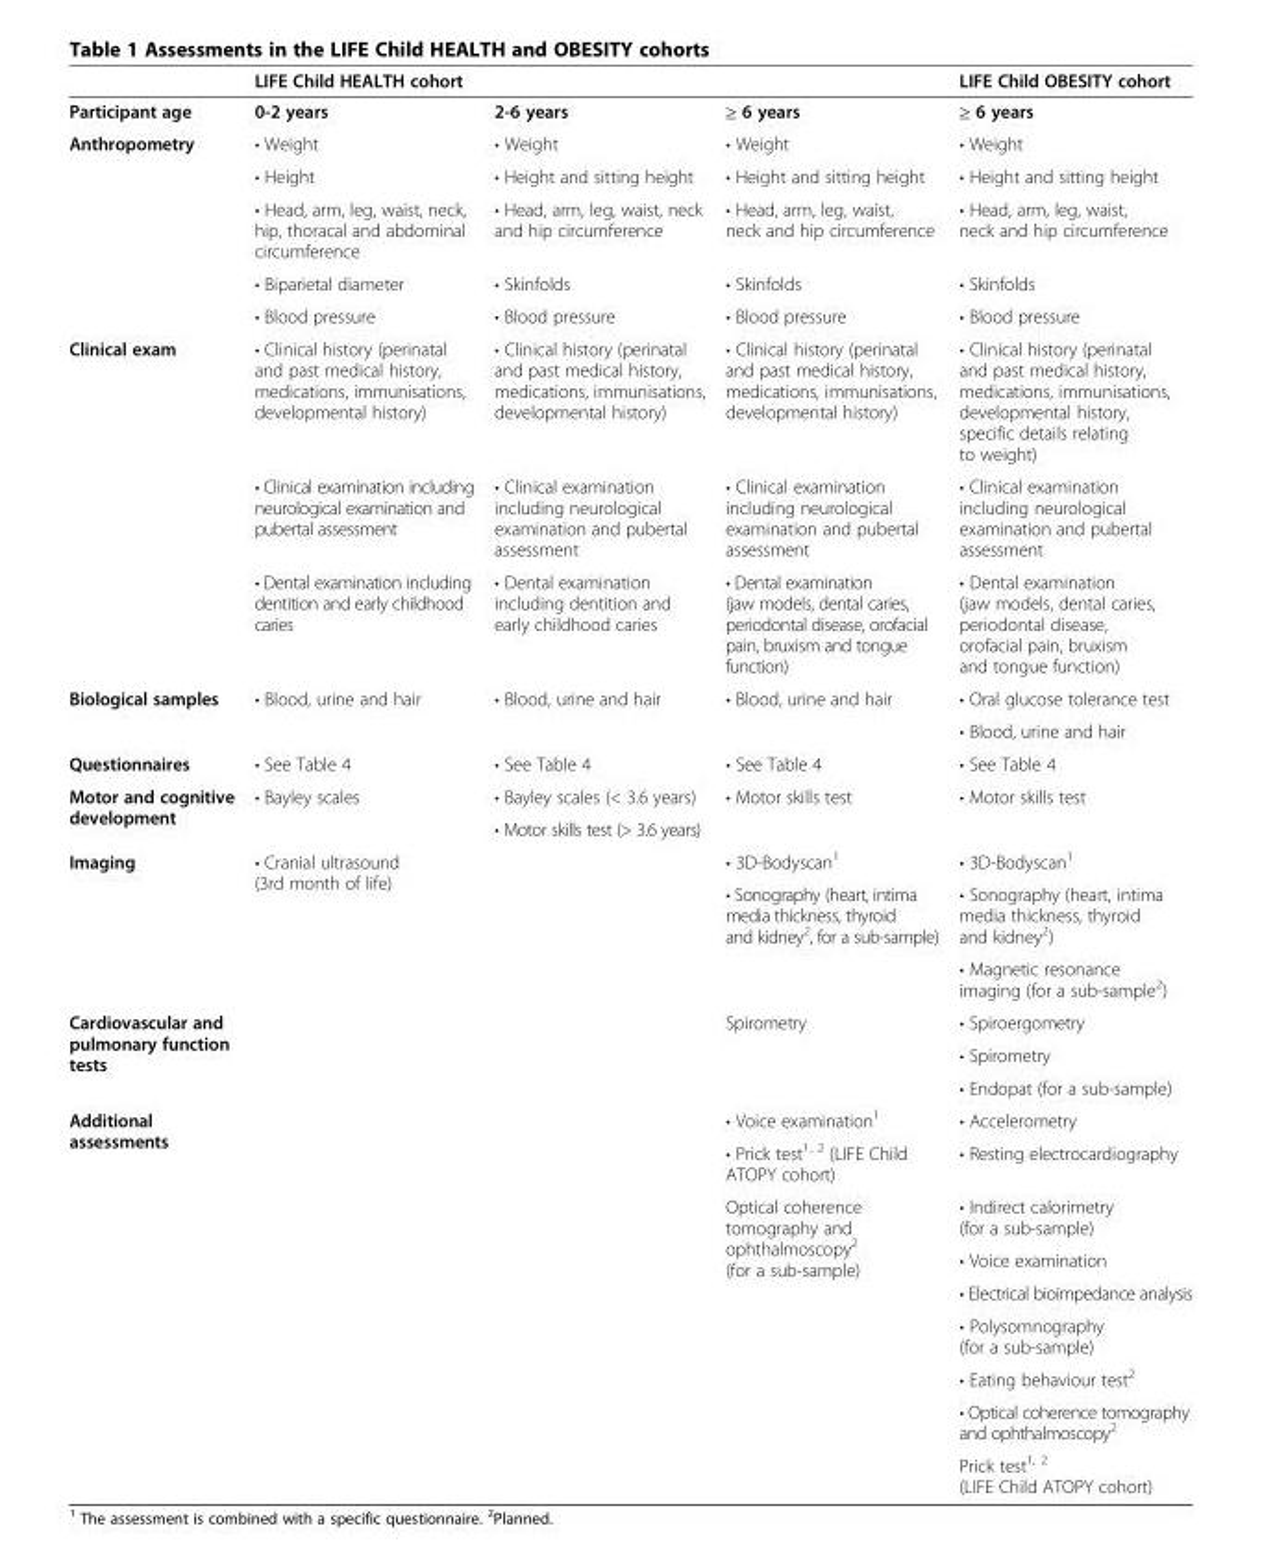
<table><thead><tr><td rowspan="2">Participant age</td><td colspan="3">LIFE Child HEALTH cohort</td><td rowspan="2">LIFE Child OBESITY cohort ≥ 6 years</td></tr><tr><td>0-2 years</td><td>2-6 years</td><td>≥ 6 years</td></tr></thead><tbody><tr><td rowspan="5">Anthropometry</td><td>• Weight</td><td>• Weight</td><td>• Weight</td><td>• Weight</td></tr><tr><td>• Height</td><td>• Height and sitting height</td><td>• Height and sitting height</td><td>• Height and sitting height</td></tr><tr><td>• Head, arm, leg, waist, neck, hip, thoracal and abdominal circumference</td><td>• Head, arm, leg, waist, neck and hip circumference</td><td>• Head, arm, leg, waist, neck and hip circumference</td><td>• Head, arm, leg, waist, neck and hip circumference</td></tr><tr><td>• Biparietal diameter</td><td>• Skinfolds</td><td>• Skinfolds</td><td>• Skinfolds</td></tr><tr><td>• Blood pressure</td><td>• Blood pressure</td><td>• Blood pressure</td><td>• Blood pressure</td></tr><tr><td rowspan="3">Clinical exam</td><td>• Clinical history (perinatal and past medical history, medications, immunisations, developmental history)</td><td>• Clinical history (perinatal and past medical history, medications, immunisations, developmental history)</td><td>• Clinical history (perinatal and past medical history, medications, immunisations, developmental history)</td><td>• Clinical history (perinatal and past medical history, medications, immunisations, developmental history, specific details relating to weight)</td></tr><tr><td>• Clinical examination including neurological examination and pubertal assessment</td><td>• Clinical examination including neurological examination and pubertal assessment</td><td>• Clinical examination including neurological examination and pubertal assessment</td><td>• Clinical examination including neurological examination and pubertal assessment</td></tr><tr><td>• Dental examination including dentition and early childhood caries</td><td>• Dental examination including dentition and early childhood caries</td><td>• Dental examination (jaw models, dental caries, periodontal disease, orofacial pain, bruxism and tongue function)</td><td>• Dental examination (jaw models, dental caries, periodontal disease, orofacial pain, bruxism and tongue function)</td></tr><tr><td rowspan="2">Biological samples</td><td rowspan="2">• Blood, urine and hair</td><td rowspan="2">• Blood, urine and hair</td><td rowspan="2">• Blood, urine and hair</td><td>• Oral glucose tolerance test</td></tr><tr><td>• Blood, urine and hair</td></tr><tr><td>Questionnaires</td><td>• See Table 4</td><td>• See Table 4</td><td>• See Table 4</td><td>• See Table 4</td></tr><tr><td rowspan="2">Motor and cognitive development</td><td rowspan="2">• Bayley scales</td><td>• Bayley scales (&lt; 3.6 years)</td><td rowspan="2">• Motor skills test</td><td rowspan="2">• Motor skills test</td></tr><tr><td>• Motor skills test (&gt; 3.6 years)</td></tr><tr><td rowspan="3">Imaging</td><td rowspan="3">• Cranial ultrasound (3rd month of life)</td><td rowspan="3"></td><td>• 3D-Bodyscan1</td><td>• 3D-Bodyscan1</td></tr><tr><td rowspan="2">• Sonography (heart, intima media thickness, thyroid and kidney2, for a sub-sample)</td><td>• Sonography (heart, intima media thickness, thyroid and kidney2)</td></tr><tr><td>• Magnetic resonance imaging (for a sub-sample2)</td></tr><tr><td rowspan="3" colspan="3">Cardiovascular and pulmonary function tests</td><td rowspan="3">Spirometry</td><td>• Spiroergometry</td></tr><tr><td>• Spirometry</td></tr><tr><td>• Endopat (for a sub-sample)</td></tr><tr><td rowspan="9">Additional assessments</td><td rowspan="8"></td><td rowspan="8"></td><td>• Voice examination1</td><td>• Accelerometry</td></tr><tr><td>• Prick test1, 2 (LIFE Child ATOPY cohort)</td><td>• Resting electrocardiography</td></tr><tr><td rowspan="6">Optical coherence tomography and ophthalmoscopy2 (for a sub-sample)</td><td>• Indirect calorimetry (for a sub-sample)</td></tr><tr><td>• Voice examination</td></tr><tr><td>• Electrical bioimpedance analysis</td></tr><tr><td>• Polysomnography (for a sub-sample)</td></tr><tr><td>• Eating behaviour test2</td></tr><tr><td>• Optical coherence tomography and ophthalmoscopy2</td></tr><tr><td></td><td></td><td></td><td>Prick test1, 2 (LIFE Child ATOPY cohort)</td></tr></tbody></table>